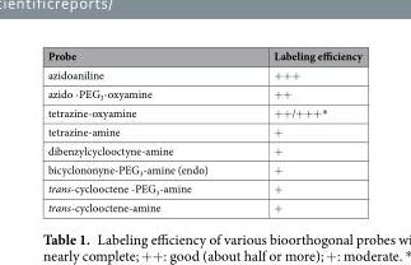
<table><thead><tr><td>Probe</td><td>Labeling efficiency</td></tr></thead><tbody><tr><td>azidoaniline</td><td>+++</td></tr><tr><td>azido -PEG<sub>3</sub>-oxyamine</td><td>++</td></tr><tr><td>tetrazine-oxyamine</td><td>++/+++*</td></tr><tr><td>tetrazine-amine</td><td>+</td></tr><tr><td>dibenzylcyclooctyne-amine</td><td>+</td></tr><tr><td>bicyclononyne-PEG<sub>3</sub>-amine (endo)</td><td>+</td></tr><tr><td>trans-cyclooctene -PEG<sub>3</sub>-amine</td><td>+</td></tr><tr><td>trans-cyclooctene-amine</td><td>+</td></tr></tbody></table>